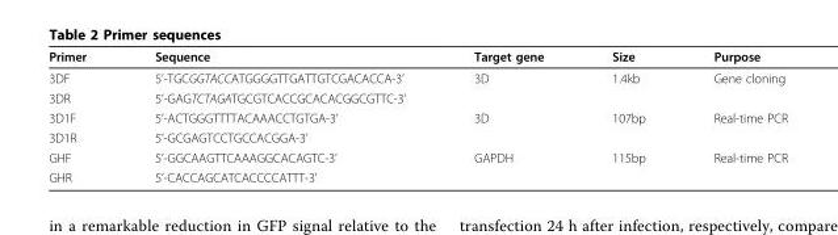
<table><thead><tr><td>Primer</td><td>Sequence</td><td>Target gene</td><td>Size</td><td>Purpose</td></tr></thead><tbody><tr><td>3DF</td><td>5’-TGCGGTACCATGGGGTTGATTGTCGACACCA-3’</td><td>3D</td><td>1.4kb</td><td>Gene cloning</td></tr><tr><td>3DR</td><td>5’-GAGTCTAGATGCGTCACCGCACACGGCGTTC-3’</td><td></td><td></td><td></td></tr><tr><td>3D1F</td><td>5’-ACTGGGTTTTACAAACCTGTGA-3’</td><td>3D</td><td>107bp</td><td>Real-time PCR</td></tr><tr><td>3D1R</td><td>5’-GCGAGTCCTGCCACGGA-3’</td><td></td><td></td><td></td></tr><tr><td>GHF</td><td>5’-GGCAAGTTCAAAGGCACAGTC-3’</td><td>GAPDH</td><td>115bp</td><td>Real-time PCR</td></tr><tr><td>GHR</td><td>5’-CACCAGCATCACCCCATTT-3’</td><td></td><td></td><td></td></tr></tbody></table>